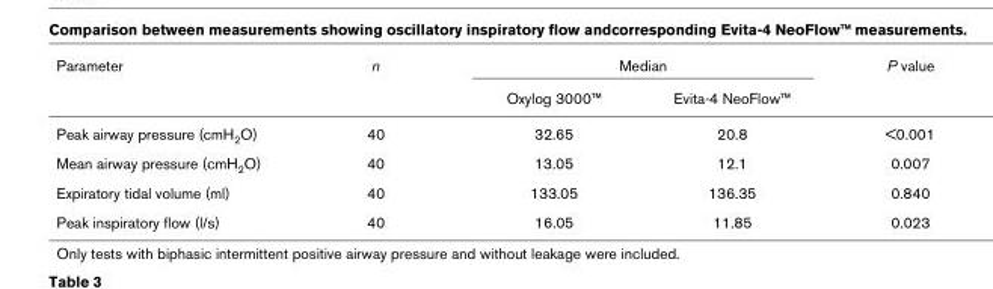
<table><thead><tr><td rowspan="2">Parameter</td><td rowspan="2">n</td><td colspan="2">Median</td><td rowspan="2">P value</td></tr><tr><td>Oxylog 3000™</td><td>Evita-4 NeoFlow™</td></tr></thead><tbody><tr><td>Peak airway pressure (cmH2O)</td><td>40</td><td>32.65</td><td>20.8</td><td>&lt;0.001</td></tr><tr><td>Mean airway pressure (cmH2O)</td><td>40</td><td>13.05</td><td>12.1</td><td>0.007</td></tr><tr><td>Expiratory tidal volume (ml)</td><td>40</td><td>133.05</td><td>136.35</td><td>0.840</td></tr><tr><td>Peak inspiratory flow (l/s)</td><td>40</td><td>16.05</td><td>11.85</td><td>0.023</td></tr></tbody></table>